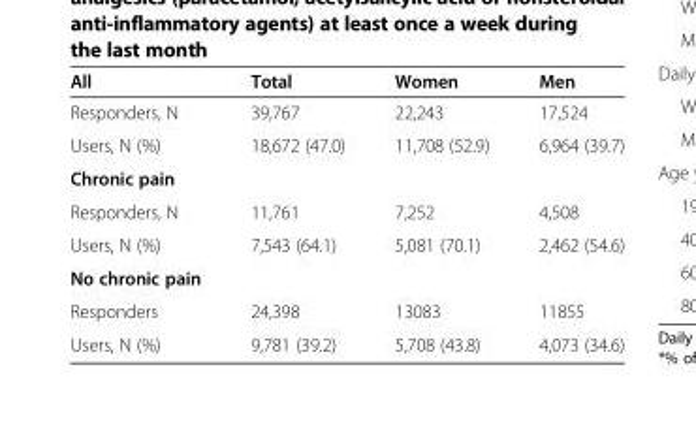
<table><thead><tr><td>All</td><td>Total</td><td>Women</td><td>Men</td></tr></thead><tbody><tr><td>Responders, N</td><td>39,767</td><td>22,243</td><td>17,524</td></tr><tr><td>Users, N (%)</td><td>18,672 (47.0)</td><td>11,708 (52.9)</td><td>6,964 (39.7)</td></tr><tr><td colspan="4">Chronic pain</td></tr><tr><td>Responders, N</td><td>11,761</td><td>7,252</td><td>4,508</td></tr><tr><td>Users, N (%)</td><td>7,543 (64.1)</td><td>5,081 (70.1)</td><td>2,462 (54.6)</td></tr><tr><td colspan="4">No chronic pain</td></tr><tr><td>Responders</td><td>24,398</td><td>13083</td><td>11855</td></tr><tr><td>Users, N (%)</td><td>9,781 (39.2)</td><td>5,708 (43.8)</td><td>4,073 (34.6)</td></tr></tbody></table>